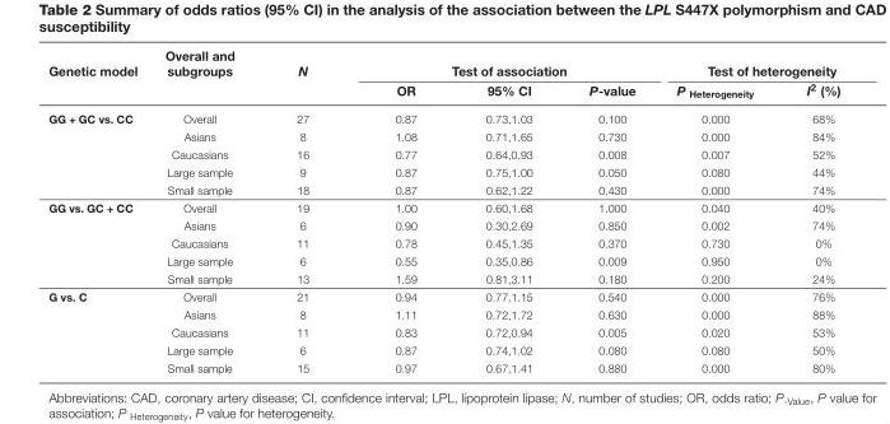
<table><thead><tr><td rowspan="2">Genetic model</td><td rowspan="2">Overall and subgroups</td><td rowspan="2">N</td><td colspan="3">Test of association</td><td colspan="2">Test of heterogeneity</td></tr><tr><td>OR</td><td>95% CI</td><td>P-value</td><td>P <sub>Heterogeneity</sub></td><td>I<sup>2</sup> (%)</td></tr></thead><tbody><tr><td rowspan="5">GG + GC vs. CC</td><td>Overall</td><td>27</td><td>0.87</td><td>0.73,1.03</td><td>0.100</td><td>0.000</td><td>68%</td></tr><tr><td>Asians</td><td>8</td><td>1.08</td><td>0.71,1.65</td><td>0.730</td><td>0.000</td><td>84%</td></tr><tr><td>Caucasians</td><td>16</td><td>0.77</td><td>0.64,0.93</td><td>0.008</td><td>0.007</td><td>52%</td></tr><tr><td>Large sample</td><td>9</td><td>0.87</td><td>0.75,1.00</td><td>0.050</td><td>0.080</td><td>44%</td></tr><tr><td>Small sample</td><td>18</td><td>0.87</td><td>0.62,1.22</td><td>0.430</td><td>0.000</td><td>74%</td></tr><tr><td rowspan="5">GG vs. GC + CC</td><td>Overall</td><td>19</td><td>1.00</td><td>0.60,1.68</td><td>1.000</td><td>0.040</td><td>40%</td></tr><tr><td>Asians</td><td>6</td><td>0.90</td><td>0.30,2.69</td><td>0.850</td><td>0.002</td><td>74%</td></tr><tr><td>Caucasians</td><td>11</td><td>0.78</td><td>0.45,1.35</td><td>0.370</td><td>0.730</td><td>0%</td></tr><tr><td>Large sample</td><td>6</td><td>0.55</td><td>0.35,0.86</td><td>0.009</td><td>0.950</td><td>0%</td></tr><tr><td>Small sample</td><td>13</td><td>1.59</td><td>0.81,3.11</td><td>0.180</td><td>0.200</td><td>24%</td></tr><tr><td rowspan="5">G vs. C</td><td>Overall</td><td>21</td><td>0.94</td><td>0.77,1.15</td><td>0.540</td><td>0.000</td><td>76%</td></tr><tr><td>Asians</td><td>8</td><td>1.11</td><td>0.72,1.72</td><td>0.630</td><td>0.000</td><td>88%</td></tr><tr><td>Caucasians</td><td>11</td><td>0.83</td><td>0.72,0.94</td><td>0.005</td><td>0.020</td><td>53%</td></tr><tr><td>Large sample</td><td>6</td><td>0.87</td><td>0.74,1.02</td><td>0.080</td><td>0.080</td><td>50%</td></tr><tr><td>Small sample</td><td>15</td><td>0.97</td><td>0.67,1.41</td><td>0.880</td><td>0.000</td><td>80%</td></tr></tbody></table>